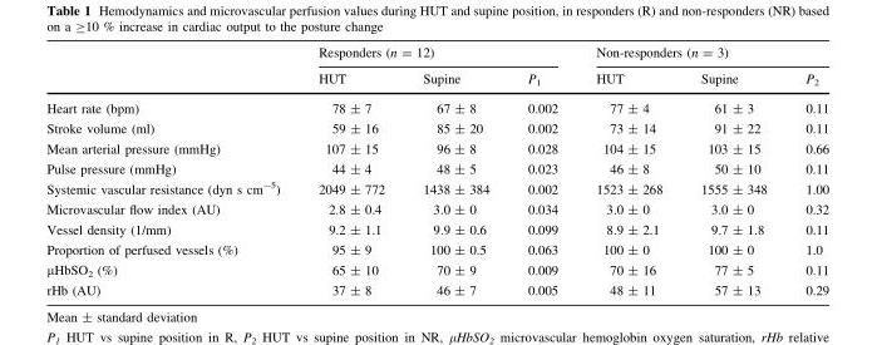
<table><thead><tr><td rowspan="2"></td><td colspan="3">Responders (n = 12)</td><td colspan="3">Non-responders (n = 3)</td></tr><tr><td>HUT</td><td>Supine</td><td>P<sub>1</sub></td><td>HUT</td><td>Supine</td><td>P<sub>2</sub></td></tr></thead><tbody><tr><td>Heart rate (bpm)</td><td>78 ± 7</td><td>67 ± 8</td><td>0.002</td><td>77 ± 4</td><td>61 ± 3</td><td>0.11</td></tr><tr><td>Stroke volume (ml)</td><td>59 ± 16</td><td>85 ± 20</td><td>0.002</td><td>73 ± 14</td><td>91 ± 22</td><td>0.11</td></tr><tr><td>Mean arterial pressure (mmHg)</td><td>107 ± 15</td><td>96 ± 8</td><td>0.028</td><td>104 ± 15</td><td>103 ± 15</td><td>0.66</td></tr><tr><td>Pulse pressure (mmHg)</td><td>44 ± 4</td><td>48 ± 5</td><td>0.023</td><td>46 ± 8</td><td>50 ± 10</td><td>0.11</td></tr><tr><td>Systemic vascular resistance (dyn s cm<sup>-5</sup>)</td><td>2049 ± 772</td><td>1438 ± 384</td><td>0.002</td><td>1523 ± 268</td><td>1555 ± 348</td><td>1.00</td></tr><tr><td>Microvascular flow index (AU)</td><td>2.8 ± 0.4</td><td>3.0 ± 0</td><td>0.034</td><td>3.0 ± 0</td><td>3.0 ± 0</td><td>0.32</td></tr><tr><td>Vessel density (1/mm)</td><td>9.2 ± 1.1</td><td>9.9 ± 0.6</td><td>0.099</td><td>8.9 ± 2.1</td><td>9.7 ± 1.8</td><td>0.11</td></tr><tr><td>Proportion of perfused vessels (%)</td><td>95 ± 9</td><td>100 ± 0.5</td><td>0.063</td><td>100 ± 0</td><td>100 ± 0</td><td>1.0</td></tr><tr><td>µHbSO<sub>2</sub> (%)</td><td>65 ± 10</td><td>70 ± 9</td><td>0.009</td><td>70 ± 16</td><td>77 ± 5</td><td>0.11</td></tr><tr><td>rHb (AU)</td><td>37 ± 8</td><td>46 ± 7</td><td>0.005</td><td>48 ± 11</td><td>57 ± 13</td><td>0.29</td></tr></tbody></table>